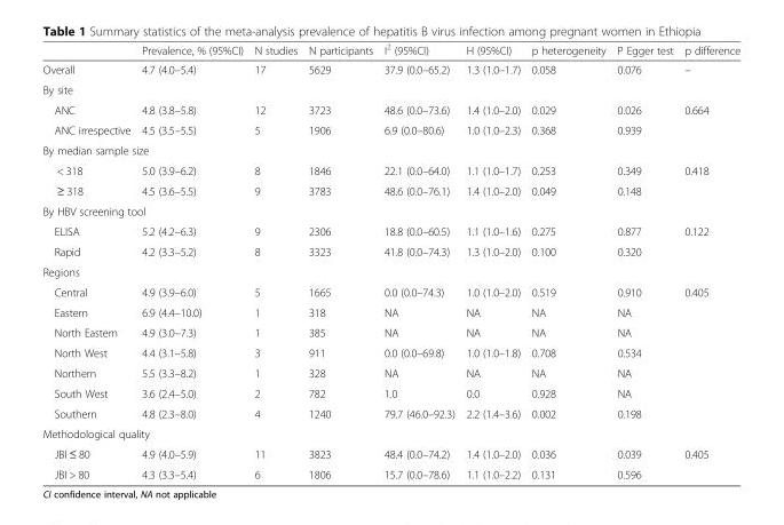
<table><thead><tr><td></td><td>Prevalence, % (95%CI)</td><td>N studies</td><td>N participants</td><td>I<sup>2</sup> (95%CI)</td><td>H (95%CI)</td><td>p heterogeneity</td><td>P Egger test</td><td>p difference</td></tr></thead><tbody><tr><td>Overall</td><td>4.7 (4.0–5.4)</td><td>17</td><td>5629</td><td>37.9 (0.0–65.2)</td><td>1.3 (1.0–1.7)</td><td>0.058</td><td>0.076</td><td>–</td></tr><tr><td colspan="9">By site</td></tr><tr><td>ANC</td><td>4.8 (3.8–5.8)</td><td>12</td><td>3723</td><td>48.6 (0.0–73.6)</td><td>1.4 (1.0–2.0)</td><td>0.029</td><td>0.026</td><td>0.664</td></tr><tr><td>ANC irrespective</td><td>4.5 (3.5–5.5)</td><td>5</td><td>1906</td><td>6.9 (0.0–80.6)</td><td>1.0 (1.0–2.3)</td><td>0.368</td><td>0.939</td><td></td></tr><tr><td colspan="9">By median sample size</td></tr><tr><td>&lt; 318</td><td>5.0 (3.9–6.2)</td><td>8</td><td>1846</td><td>22.1 (0.0–64.0)</td><td>1.1 (1.0–1.7)</td><td>0.253</td><td>0.349</td><td>0.418</td></tr><tr><td>≥ 318</td><td>4.5 (3.6–5.5)</td><td>9</td><td>3783</td><td>48.6 (0.0–76.1)</td><td>1.4 (1.0–2.0)</td><td>0.049</td><td>0.148</td><td></td></tr><tr><td colspan="9">By HBV screening tool</td></tr><tr><td>ELISA</td><td>5.2 (4.2–6.3)</td><td>9</td><td>2306</td><td>18.8 (0.0–60.5)</td><td>1.1 (1.0–1.6)</td><td>0.275</td><td>0.877</td><td>0.122</td></tr><tr><td>Rapid</td><td>4.2 (3.3–5.2)</td><td>8</td><td>3323</td><td>41.8 (0.0–74.3)</td><td>1.3 (1.0–2.0)</td><td>0.100</td><td>0.320</td><td></td></tr><tr><td colspan="9">Regions</td></tr><tr><td>Central</td><td>4.9 (3.9–6.0)</td><td>5</td><td>1665</td><td>0.0 (0.0–74.3)</td><td>1.0 (1.0–2.0)</td><td>0.519</td><td>0.910</td><td>0.405</td></tr><tr><td>Eastern</td><td>6.9 (4.4–10.0)</td><td>1</td><td>318</td><td>NA</td><td>NA</td><td>NA</td><td>NA</td><td></td></tr><tr><td>North Eastern</td><td>4.9 (3.0–7.3)</td><td>1</td><td>385</td><td>NA</td><td>NA</td><td>NA</td><td>NA</td><td></td></tr><tr><td>North West</td><td>4.4 (3.1–5.8)</td><td>3</td><td>911</td><td>0.0 (0.0–69.8)</td><td>1.0 (1.0–1.8)</td><td>0.708</td><td>0.534</td><td></td></tr><tr><td>Northern</td><td>5.5 (3.3–8.2)</td><td>1</td><td>328</td><td>NA</td><td>NA</td><td>NA</td><td>NA</td><td></td></tr><tr><td>South West</td><td>3.6 (2.4–5.0)</td><td>2</td><td>782</td><td>1.0</td><td>0.0</td><td>0.928</td><td>NA</td><td></td></tr><tr><td>Southern</td><td>4.8 (2.3–8.0)</td><td>4</td><td>1240</td><td>79.7 (46.0–92.3)</td><td>2.2 (1.4–3.6)</td><td>0.002</td><td>0.198</td><td></td></tr><tr><td colspan="9">Methodological quality</td></tr><tr><td>JBI ≤ 80</td><td>4.9 (4.0–5.9)</td><td>11</td><td>3823</td><td>48.4 (0.0–74.2)</td><td>1.4 (1.0–2.0)</td><td>0.036</td><td>0.039</td><td>0.405</td></tr><tr><td>JBI &gt; 80</td><td>4.3 (3.3–5.4)</td><td>6</td><td>1806</td><td>15.7 (0.0–78.6)</td><td>1.1 (1.0–2.2)</td><td>0.131</td><td>0.596</td><td></td></tr></tbody></table>